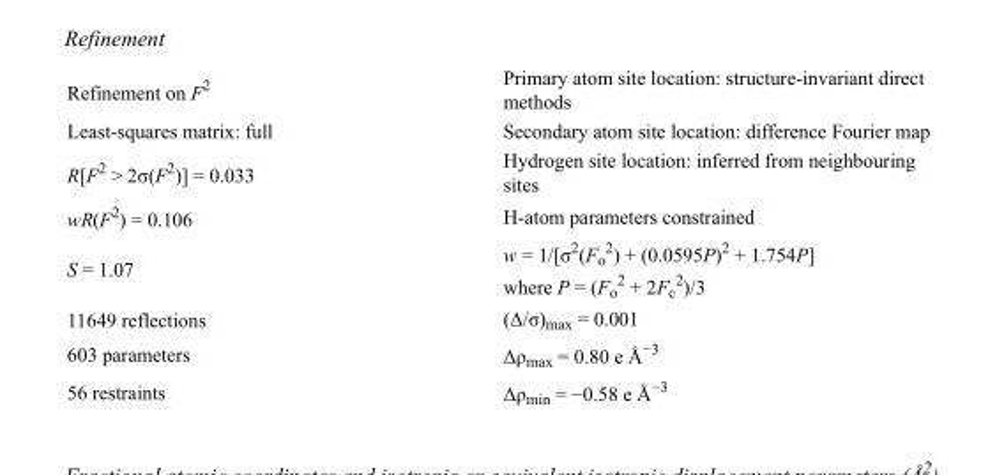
<table><tbody><tr><td>Refinement on F<sup>2</sup></td><td>Primary atom site location: structure-invariant direct methods</td></tr><tr><td>Least-squares matrix: full</td><td>Secondary atom site location: difference Fourier map</td></tr><tr><td>R[F<sup>2</sup> &gt; 2σ(F<sup>2</sup>)] = 0.033</td><td>Hydrogen site location: inferred from neighbouring sites</td></tr><tr><td>wR(F<sup>2</sup>) = 0.106</td><td>H-atom parameters constrained</td></tr><tr><td>S = 1.07</td><td>w = 1/[σ<sup>2</sup>(F<sub>o</sub> <sup>2</sup>) + (0.0595P)<sup>2</sup> + 1.754P] where P = (F<sub>o</sub> <sup>2</sup> + 2F<sub>c</sub> <sup>2</sup>)/3</td></tr><tr><td>11649 reflections</td><td>(Δ/σ)<sub>max</sub> = 0.001</td></tr><tr><td>603 parameters</td><td>Δρ<sub>max</sub> = 0.80 e Å<sup>−3</sup></td></tr><tr><td>56 restraints</td><td>Δρ<sub>min</sub> = −0.58 e Å<sup>−3</sup></td></tr></tbody></table>